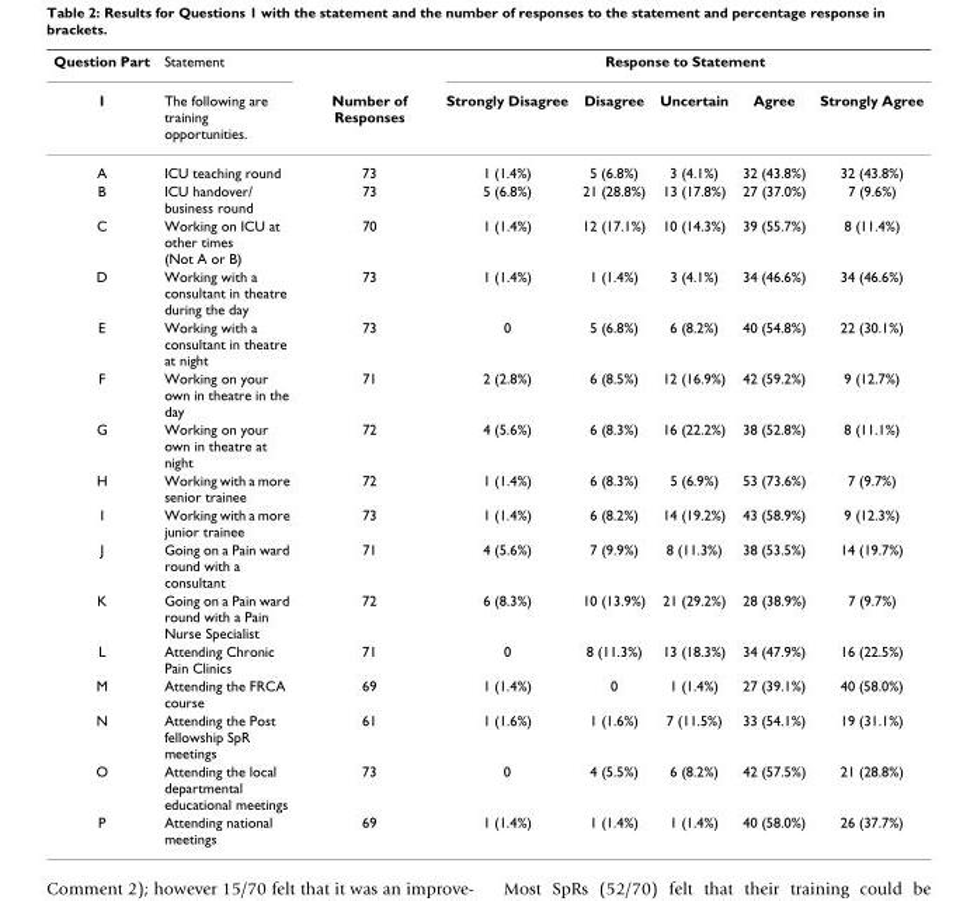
<table><thead><tr><td rowspan="2">Question Part 1</td><td rowspan="2">Statement The following are training opportunities.</td><td rowspan="2">Number of Responses</td><td colspan="5">Response to Statement</td></tr><tr><td>Strongly Disagree</td><td>Disagree</td><td>Uncertain</td><td>Agree</td><td>Strongly Agree</td></tr></thead><tbody><tr><td>A</td><td>ICU teaching round</td><td>73</td><td>1 (1.4%)</td><td>5 (6.8%)</td><td>3 (4.1%)</td><td>32 (43.8%)</td><td>32 (43.8%)</td></tr><tr><td>B</td><td>ICU handover/ business round</td><td>73</td><td>5 (6.8%)</td><td>21 (28.8%)</td><td>13 (17.8%)</td><td>27 (37.0%)</td><td>7 (9.6%)</td></tr><tr><td>C</td><td>Working on ICU at other times (Not A or B)</td><td>70</td><td>1 (1.4%)</td><td>12 (17.1%)</td><td>10 (14.3%)</td><td>39 (55.7%)</td><td>8 (11.4%)</td></tr><tr><td>D</td><td>Working with a consultant in theatre during the day</td><td>73</td><td>1 (1.4%)</td><td>1 (1.4%)</td><td>3 (4.1%)</td><td>34 (46.6%)</td><td>34 (46.6%)</td></tr><tr><td>E</td><td>Working with a consultant in theatre at night</td><td>73</td><td>0</td><td>5 (6.8%)</td><td>6 (8.2%)</td><td>40 (54.8%)</td><td>22 (30.1%)</td></tr><tr><td>F</td><td>Working on your own in theatre in the day</td><td>71</td><td>2 (2.8%)</td><td>6 (8.5%)</td><td>12 (16.9%)</td><td>42 (59.2%)</td><td>9 (12.7%)</td></tr><tr><td>G</td><td>Working on your own in theatre at night</td><td>72</td><td>4 (5.6%)</td><td>6 (8.3%)</td><td>16 (22.2%)</td><td>38 (52.8%)</td><td>8 (11.1%)</td></tr><tr><td>H</td><td>Working with a more senior trainee</td><td>72</td><td>1 (1.4%)</td><td>6 (8.3%)</td><td>5 (6.9%)</td><td>53 (73.6%)</td><td>7 (9.7%)</td></tr><tr><td>I</td><td>Working with a more junior trainee</td><td>73</td><td>1 (1.4%)</td><td>6 (8.2%)</td><td>14 (19.2%)</td><td>43 (58.9%)</td><td>9 (12.3%)</td></tr><tr><td>J</td><td>Going on a Pain ward round with a consultant</td><td>71</td><td>4 (5.6%)</td><td>7 (9.9%)</td><td>8 (11.3%)</td><td>38 (53.5%)</td><td>14 (19.7%)</td></tr><tr><td>K</td><td>Going on a Pain ward round with a Pain Nurse Specialist</td><td>72</td><td>6 (8.3%)</td><td>10 (13.9%)</td><td>21 (29.2%)</td><td>28 (38.9%)</td><td>7 (9.7%)</td></tr><tr><td>L</td><td>Attending Chronic Pain Clinics</td><td>71</td><td>0</td><td>8 (11.3%)</td><td>13 (18.3%)</td><td>34 (47.9%)</td><td>16 (22.5%)</td></tr><tr><td>M</td><td>Attending the FRCA course</td><td>69</td><td>1 (1.4%)</td><td>0</td><td>1 (1.4%)</td><td>27 (39.1%)</td><td>40 (58.0%)</td></tr><tr><td>N</td><td>Attending the Post fellowship SpR meetings</td><td>61</td><td>1 (1.6%)</td><td>1 (1.6%)</td><td>7 (11.5%)</td><td>33 (54.1%)</td><td>19 (31.1%)</td></tr><tr><td>O</td><td>Attending the local departmental educational meetings</td><td>73</td><td>0</td><td>4 (5.5%)</td><td>6 (8.2%)</td><td>42 (57.5%)</td><td>21 (28.8%)</td></tr><tr><td>P</td><td>Attending national meetings</td><td>69</td><td>1 (1.4%)</td><td>1 (1.4%)</td><td>1 (1.4%)</td><td>40 (58.0%)</td><td>26 (37.7%)</td></tr></tbody></table>